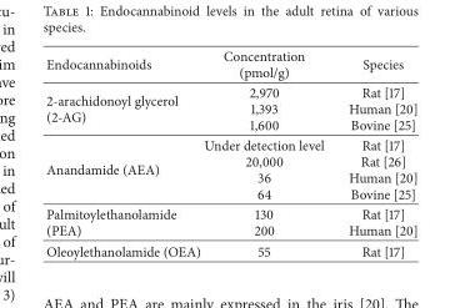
<table><thead><tr><td>Endocannabinoids</td><td>Concentration (pmol/g)</td><td>Species</td></tr></thead><tbody><tr><td>2-arachidonoyl glycerol (2-AG)</td><td>2,970 1,393 1,600</td><td>Rat [17] Human [20] Bovine [25]</td></tr><tr><td>Anandamide (AEA)</td><td>Under detection level 20,000 36 64</td><td>Rat [17] Rat [26] Human [20] Bovine [25]</td></tr><tr><td>Palmitoylethanolamide (PEA)</td><td>130 200</td><td>Rat [17] Human [20]</td></tr><tr><td>Oleoylethanolamide (OEA)</td><td>55</td><td>Rat [17]</td></tr></tbody></table>